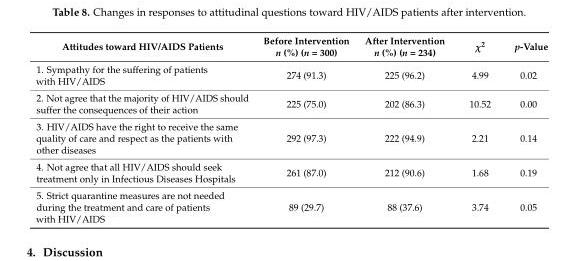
<table><thead><tr><td>Attitudes toward HIV/AIDS Patients</td><td>Before Intervention n (%) (n = 300)</td><td>After Intervention n (%) (n = 234)</td><td>χ<sup>2</sup></td><td>p-Value</td></tr></thead><tbody><tr><td>1. Sympathy for the suffering of patients with HIV/AIDS</td><td>274 (91.3)</td><td>225 (96.2)</td><td>4.99</td><td>0.02</td></tr><tr><td>2. Not agree that the majority of HIV/AIDS should suffer the consequences of their action</td><td>225 (75.0)</td><td>202 (86.3)</td><td>10.52</td><td>0.00</td></tr><tr><td>3. HIV/AIDS have the right to receive the same quality of care and respect as the patients with other diseases</td><td>292 (97.3)</td><td>222 (94.9)</td><td>2.21</td><td>0.14</td></tr><tr><td>4. Not agree that all HIV/AIDS should seek treatment only in Infectious Diseases Hospitals</td><td>261 (87.0)</td><td>212 (90.6)</td><td>1.68</td><td>0.19</td></tr><tr><td>5. Strict quarantine measures are not needed during the treatment and care of patients with HIV/AIDS</td><td>89 (29.7)</td><td>88 (37.6)</td><td>3.74</td><td>0.05</td></tr></tbody></table>